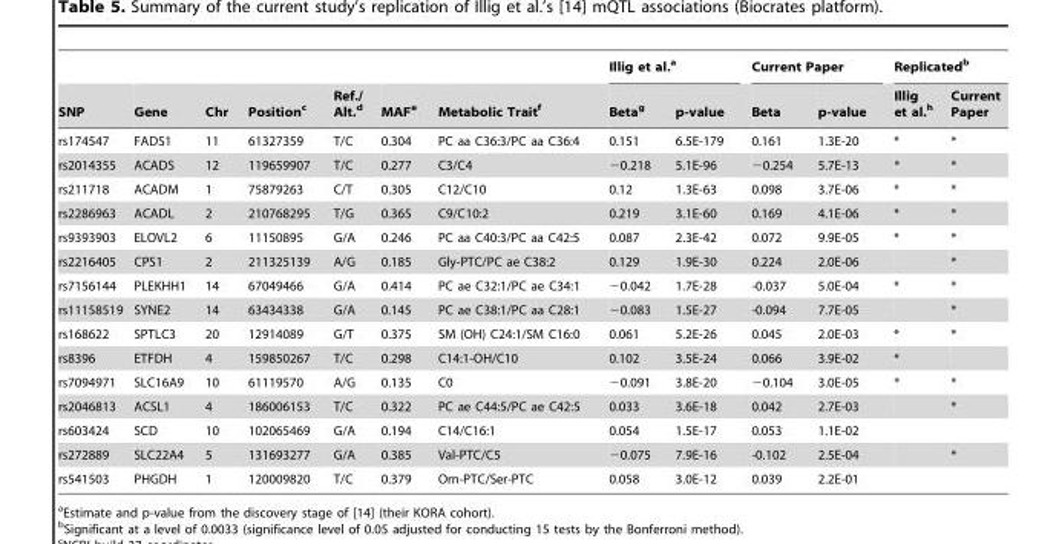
<table><thead><tr><td rowspan="2">SNP</td><td rowspan="2">Gene</td><td rowspan="2">Chr</td><td rowspan="2">Position<sup>c</sup></td><td rowspan="2">Ref./ Alt.<sup>d</sup></td><td rowspan="2">MAF<sup>e</sup></td><td rowspan="2">Metabolic Trait<sup>f</sup></td><td colspan="2">Illig et al.<sup>a</sup></td><td colspan="2">Current Paper</td><td colspan="2">Replicated<sup>b</sup></td></tr><tr><td>Beta<sup>g</sup></td><td>p-value</td><td>Beta</td><td>p-value</td><td>Illig et al.<sup>h</sup></td><td>Current Paper</td></tr></thead><tbody><tr><td>rs174547</td><td>FADS1</td><td>11</td><td>61327359</td><td>T/C</td><td>0.304</td><td>PC aa C36:3/PC aa C36:4</td><td>0.151</td><td>6.5E-179</td><td>0.161</td><td>1.3E-20</td><td>*</td><td>*</td></tr><tr><td>rs2014355</td><td>ACADS</td><td>12</td><td>119659907</td><td>T/C</td><td>0.277</td><td>C3/C4</td><td>−0.218</td><td>5.1E-96</td><td>−0.254</td><td>5.7E-13</td><td>*</td><td>*</td></tr><tr><td>rs211718</td><td>ACADM</td><td>1</td><td>75879263</td><td>C/T</td><td>0.305</td><td>C12/C10</td><td>0.12</td><td>1.3E-63</td><td>0.098</td><td>3.7E-06</td><td>*</td><td>*</td></tr><tr><td>rs2286963</td><td>ACADL</td><td>2</td><td>210768295</td><td>T/G</td><td>0.365</td><td>C9/C10:2</td><td>0.219</td><td>3.1E-60</td><td>0.169</td><td>4.1E-06</td><td>*</td><td>*</td></tr><tr><td>rs9393903</td><td>ELOVL2</td><td>6</td><td>11150895</td><td>G/A</td><td>0.246</td><td>PC aa C40:3/PC aa C42:5</td><td>0.087</td><td>2.3E-42</td><td>0.072</td><td>9.9E-05</td><td>*</td><td>*</td></tr><tr><td>rs2216405</td><td>CPS1</td><td>2</td><td>211325139</td><td>A/G</td><td>0.185</td><td>Gly-PTC/PC ae C38:2</td><td>0.129</td><td>1.9E-30</td><td>0.224</td><td>2.0E-06</td><td></td><td>*</td></tr><tr><td>rs7156144</td><td>PLEKHH1</td><td>14</td><td>67049466</td><td>G/A</td><td>0.414</td><td>PC ae C32:1/PC ae C34:1</td><td>−0.042</td><td>1.7E-28</td><td>-0.037</td><td>5.0E-04</td><td>*</td><td>*</td></tr><tr><td>rs11158519</td><td>SYNE2</td><td>14</td><td>63434338</td><td>G/A</td><td>0.145</td><td>PC ae C38:1/PC aa C28:1</td><td>−0.083</td><td>1.5E-27</td><td>-0.094</td><td>7.7E-05</td><td></td><td>*</td></tr><tr><td>rs168622</td><td>SPTLC3</td><td>20</td><td>12914089</td><td>G/T</td><td>0.375</td><td>SM (OH) C24:1/SM C16:0</td><td>0.061</td><td>5.2E-26</td><td>0.045</td><td>2.0E-03</td><td>*</td><td>*</td></tr><tr><td>rs8396</td><td>ETFDH</td><td>4</td><td>159850267</td><td>T/C</td><td>0.298</td><td>C14:1-OH/C10</td><td>0.102</td><td>3.5E-24</td><td>0.066</td><td>3.9E-02</td><td>*</td><td></td></tr><tr><td>rs7094971</td><td>SLC16A9</td><td>10</td><td>61119570</td><td>A/G</td><td>0.135</td><td>C0</td><td>−0.091</td><td>3.8E-20</td><td>−0.104</td><td>3.0E-05</td><td>*</td><td>*</td></tr><tr><td>rs2046813</td><td>ACSL1</td><td>4</td><td>186006153</td><td>T/C</td><td>0.322</td><td>PC ae C44:5/PC ae C42:5</td><td>0.033</td><td>3.6E-18</td><td>0.042</td><td>2.7E-03</td><td></td><td>*</td></tr><tr><td>rs603424</td><td>SCD</td><td>10</td><td>102065469</td><td>G/A</td><td>0.194</td><td>C14/C16:1</td><td>0.054</td><td>1.5E-17</td><td>0.053</td><td>1.1E-02</td><td></td><td></td></tr><tr><td>rs272889</td><td>SLC22A4</td><td>5</td><td>131693277</td><td>G/A</td><td>0.385</td><td>Val-PTC/C5</td><td>−0.075</td><td>7.9E-16</td><td>-0.102</td><td>2.5E-04</td><td></td><td>*</td></tr><tr><td>rs541503</td><td>PHGDH</td><td>1</td><td>120009820</td><td>T/C</td><td>0.379</td><td>Orn-PTC/Ser-PTC</td><td>0.058</td><td>3.0E-12</td><td>0.039</td><td>2.2E-01</td><td></td><td></td></tr></tbody></table>